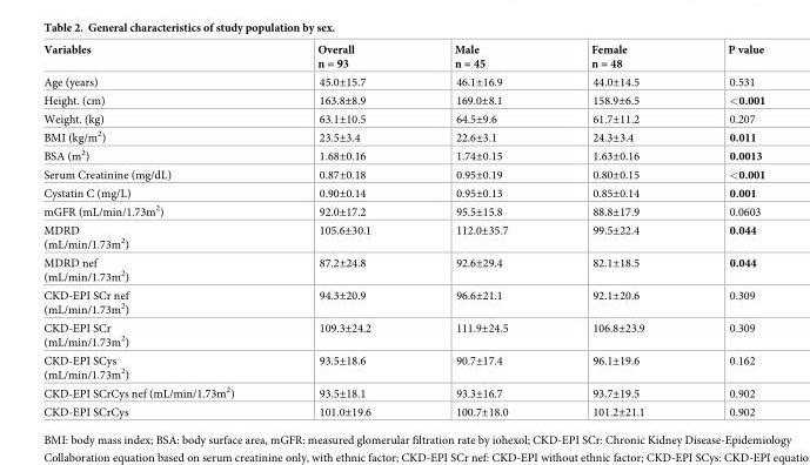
<table><thead><tr><td>Variables</td><td>Overall n = 93</td><td>Male n = 45</td><td>Female n = 48</td><td>P value</td></tr></thead><tbody><tr><td>Age (years)</td><td>45.0±15.7</td><td>46.1±16.9</td><td>44.0±14.5</td><td>0.531</td></tr><tr><td>Height. (cm)</td><td>163.8±8.9</td><td>169.0±8.1</td><td>158.9±6.5</td><td>&lt;0.001</td></tr><tr><td>Weight. (kg)</td><td>63.1±10.5</td><td>64.5±9.6</td><td>61.7±11.2</td><td>0.207</td></tr><tr><td>BMI (kg/m<sup>2</sup>)</td><td>23.5±3.4</td><td>22.6±3.1</td><td>24.3±3.4</td><td>0.011</td></tr><tr><td>BSA (m<sup>2</sup>)</td><td>1.68±0.16</td><td>1.74±0.15</td><td>1.63±0.16</td><td>0.0013</td></tr><tr><td>Serum Creatinine (mg/dL)</td><td>0.87±0.18</td><td>0.95±0.19</td><td>0.80±0.15</td><td>&lt;0.001</td></tr><tr><td>Cystatin C (mg/L)</td><td>0.90±0.14</td><td>0.95±0.13</td><td>0.85±0.14</td><td>0.001</td></tr><tr><td>mGFR (mL/min/1.73m<sup>2</sup>)</td><td>92.0±17.2</td><td>95.5±15.8</td><td>88.8±17.9</td><td>0.0603</td></tr><tr><td>MDRD (mL/min/1.73m<sup>2</sup>)</td><td>105.6±30.1</td><td>112.0±35.7</td><td>99.5±22.4</td><td>0.044</td></tr><tr><td>MDRD nef (mL/min/1.73m<sup>2</sup>)</td><td>87.2±24.8</td><td>92.6±29.4</td><td>82.1±18.5</td><td>0.044</td></tr><tr><td>CKD-EPI SCr nef (mL/min/1.73m<sup>2</sup>)</td><td>94.3±20.9</td><td>96.6±21.1</td><td>92.1±20.6</td><td>0.309</td></tr><tr><td>CKD-EPI SCr (mL/min/1.73m<sup>2</sup>)</td><td>109.3±24.2</td><td>111.9±24.5</td><td>106.8±23.9</td><td>0.309</td></tr><tr><td>CKD-EPI SCys (mL/min/1.73m<sup>2</sup>)</td><td>93.5±18.6</td><td>90.7±17.4</td><td>96.1±19.6</td><td>0.162</td></tr><tr><td>CKD-EPI SCrCys nef (mL/min/1.73m<sup>2</sup>)</td><td>93.5±18.1</td><td>93.3±16.7</td><td>93.7±19.5</td><td>0.902</td></tr><tr><td>CKD-EPI SCrCys</td><td>101.0±19.6</td><td>100.7±18.0</td><td>101.2±21.1</td><td>0.902</td></tr></tbody></table>